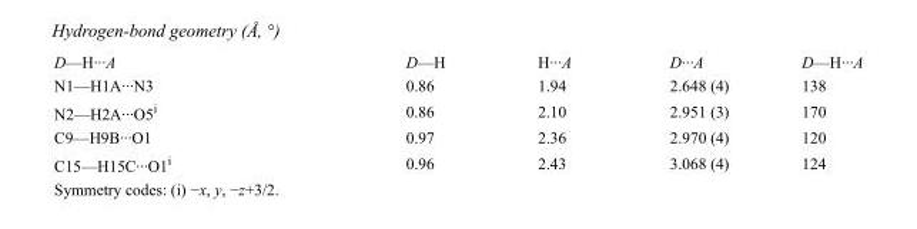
<table><tbody><tr><td>D—H···A</td><td>D—H</td><td>H···A</td><td>D···A</td><td>D—H···A</td></tr><tr><td>N1—H1A···N3</td><td>0.86</td><td>1.94</td><td>2.648 (4)</td><td>138</td></tr><tr><td>N2—H2A···O5<sup>i</sup></td><td>0.86</td><td>2.10</td><td>2.951 (3)</td><td>170</td></tr><tr><td>C9—H9B···O1</td><td>0.97</td><td>2.36</td><td>2.970 (4)</td><td>120</td></tr><tr><td>C15—H15C···O1<sup>i</sup></td><td>0.96</td><td>2.43</td><td>3.068 (4)</td><td>124</td></tr></tbody></table>